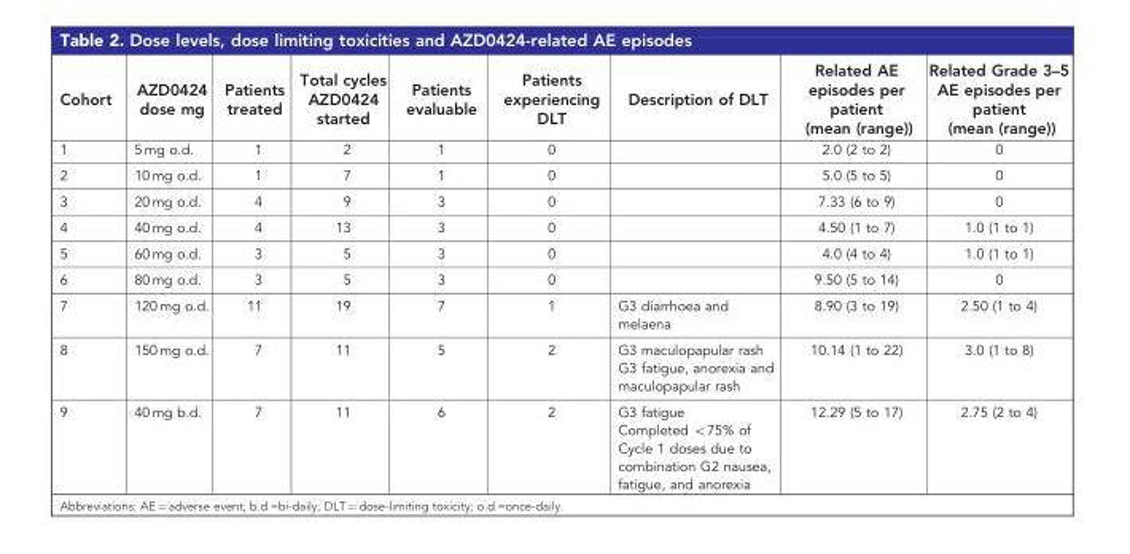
<table><thead><tr><td>Cohort</td><td>AZD0424 dose mg</td><td>Patients treated</td><td>Total cycles AZD0424 started</td><td>Patients evaluable</td><td>Patients experiencing DLT</td><td>Description of DLT</td><td>Related AE episodes per patient (mean (range))</td><td>Related Grade 3–5 AE episodes per patient (mean (range))</td></tr></thead><tbody><tr><td>1</td><td>5 mg o.d.</td><td>1</td><td>2</td><td>1</td><td>0</td><td></td><td>2.0 (2 to 2)</td><td>0</td></tr><tr><td>2</td><td>10 mg o.d.</td><td>1</td><td>7</td><td>1</td><td>0</td><td></td><td>5.0 (5 to 5)</td><td>0</td></tr><tr><td>3</td><td>20 mg o.d.</td><td>4</td><td>9</td><td>3</td><td>0</td><td></td><td>7.33 (6 to 9)</td><td>0</td></tr><tr><td>4</td><td>40 mg o.d.</td><td>4</td><td>13</td><td>3</td><td>0</td><td></td><td>4.50 (1 to 7)</td><td>1.0 (1 to 1)</td></tr><tr><td>5</td><td>60 mg o.d.</td><td>3</td><td>5</td><td>3</td><td>0</td><td></td><td>4.0 (4 to 4)</td><td>1.0 (1 to 1)</td></tr><tr><td>6</td><td>80 mg o.d.</td><td>3</td><td>5</td><td>3</td><td>0</td><td></td><td>9.50 (5 to 14)</td><td>0</td></tr><tr><td>7</td><td>120 mg o.d.</td><td>11</td><td>19</td><td>7</td><td>1</td><td>G3 diarrhoea and melaena</td><td>8.90 (3 to 19)</td><td>2.50 (1 to 4)</td></tr><tr><td>8</td><td>150 mg o.d.</td><td>7</td><td>11</td><td>5</td><td>2</td><td>G3 maculopapular rash G3 fatigue, anorexia and maculopapular rash</td><td>10.14 (1 to 22)</td><td>3.0 (1 to 8)</td></tr><tr><td>9</td><td>40 mg b.d.</td><td>7</td><td>11</td><td>6</td><td>2</td><td>G3 fatigue Completed &lt;75% of Cycle 1 doses due to combination G2 nausea, fatigue, and anorexia</td><td>12.29 (5 to 17)</td><td>2.75 (2 to 4)</td></tr></tbody></table>